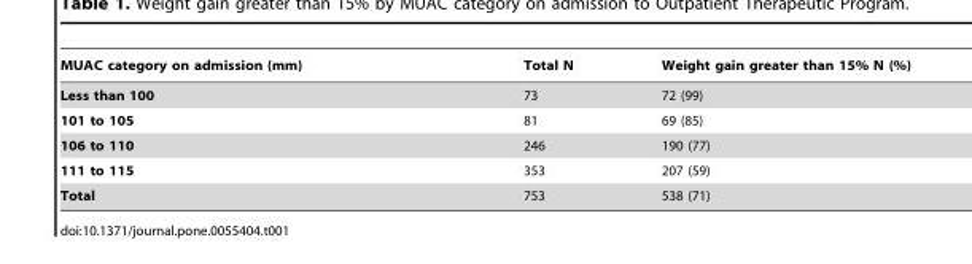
<table><thead><tr><td>MUAC category on admission (mm)</td><td>Total N</td><td>Weight gain greater than 15% N (%)</td></tr></thead><tbody><tr><td>Less than 100</td><td>73</td><td>72 (99)</td></tr><tr><td>101 to 105</td><td>81</td><td>69 (85)</td></tr><tr><td>106 to 110</td><td>246</td><td>190 (77)</td></tr><tr><td>111 to 115</td><td>353</td><td>207 (59)</td></tr><tr><td>Total</td><td>753</td><td>538 (71)</td></tr></tbody></table>